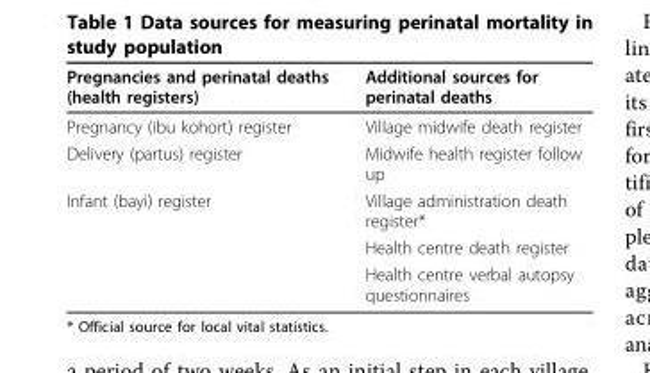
<table><thead><tr><td>Pregnancies and perinatal deaths (health registers)</td><td>Additional sources for perinatal deaths</td></tr></thead><tbody><tr><td>Pregnancy (ibu kohort) register</td><td>Village midwife death register</td></tr><tr><td>Delivery (partus) register</td><td>Midwife health register follow up</td></tr><tr><td rowspan="3">Infant (bayi) register</td><td>Village administration death register*</td></tr><tr><td>Health centre death register</td></tr><tr><td>Health centre verbal autopsy questionnaires</td></tr></tbody></table>